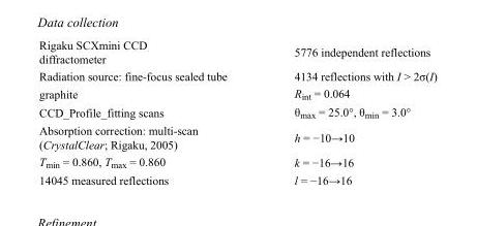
<table><tbody><tr><td>Rigaku SCXmini CCD diffractometer</td><td>5776 independent reflections</td></tr><tr><td>Radiation source: fine-focus sealed tube</td><td>4134 reflections with I &gt; 2σ(I)</td></tr><tr><td>graphite</td><td>R<sub>int</sub> = 0.064</td></tr><tr><td>CCD_Profile_fitting scans</td><td>θ<sub>max</sub> = 25.0°, θ<sub>min</sub> = 3.0°</td></tr><tr><td>Absorption correction: multi-scan (CrystalClear; Rigaku, 2005)</td><td>h = −10→10</td></tr><tr><td>T<sub>min</sub> = 0.860, T<sub>max</sub> = 0.860</td><td>k = −16→16</td></tr><tr><td>14045 measured reflections</td><td>l = −16→16</td></tr></tbody></table>